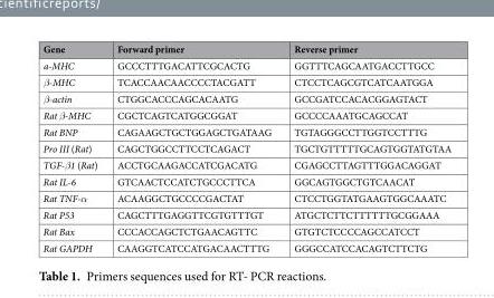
<table><thead><tr><td>Gene</td><td>Forward primer</td><td>Reverse primer</td></tr></thead><tbody><tr><td>a-MHC</td><td>GCCCTTTGACATTCGCACTG</td><td>GGTTTCAGCAATGACCTTGCC</td></tr><tr><td>β-MHC</td><td>TCACCAACAACCCCTACGATT</td><td>CTCCTCAGCGTCATCAATGGA</td></tr><tr><td>β-actin</td><td>CTGGCACCCAGCACAATG</td><td>GCCGATCCACACGGAGTACT</td></tr><tr><td>Rat β-MHC</td><td>CGCTCAGTCATGGCGGAT</td><td>GCCCCAAATGCAGCCAT</td></tr><tr><td>Rat BNP</td><td>CAGAAGCTGCTGGAGCTGATAAG</td><td>TGTAGGGCCTTGGTCCTTTG</td></tr><tr><td>Pro III (Rat)</td><td>CAGCTGGCCTTCCTCAGACT</td><td>TGCTGTTTTTGCAGTGGTATGTAA</td></tr><tr><td>TGF-β1 (Rat)</td><td>ACCTGCAAGACCATCGACATG</td><td>CGAGCCTTAGTTTGGACAGGAT</td></tr><tr><td>Rat IL-6</td><td>GTCAACTCCATCTGCCCTTCA</td><td>GGCAGTGGCTGTCAACAT</td></tr><tr><td>Rat TNF-α</td><td>ACAAGGCTGCCCCGACTAT</td><td>CTCCTGGTATGAAGTGGCAAATC</td></tr><tr><td>Rat P53</td><td>CAGCTTTGAGGTTCGTGTTTGT</td><td>ATGCTCTTCTTTTTTGCGGAAA</td></tr><tr><td>Rat Bax</td><td>CCCACCAGCTCTGAACAGTTC</td><td>GTGTCTCCCCAGCCATCCT</td></tr><tr><td>Rat GAPDH</td><td>CAAGGTCATCCATGACAACTTTG</td><td>GGGCCATCCACAGTCTTCTG</td></tr></tbody></table>